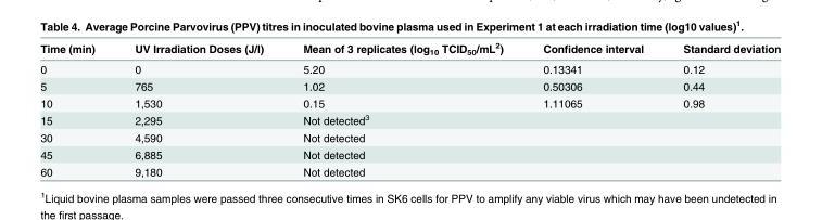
<table><thead><tr><td>Time (min)</td><td>UV Irradiation Doses (J/l)</td><td>Mean of 3 replicates (log<sub>10</sub> TCID<sub>50</sub>/mL<sup>2</sup>)</td><td>Confidence interval</td><td>Standard deviation</td></tr></thead><tbody><tr><td>0</td><td>0</td><td>5.20</td><td>0.13341</td><td>0.12</td></tr><tr><td>5</td><td>765</td><td>1.02</td><td>0.50306</td><td>0.44</td></tr><tr><td>10</td><td>1,530</td><td>0.15</td><td>1.11065</td><td>0.98</td></tr><tr><td>15</td><td>2,295</td><td>Not detected<sup>3</sup></td><td></td><td></td></tr><tr><td>30</td><td>4,590</td><td>Not detected</td><td></td><td></td></tr><tr><td>45</td><td>6,885</td><td>Not detected</td><td></td><td></td></tr><tr><td>60</td><td>9,180</td><td>Not detected</td><td></td><td></td></tr></tbody></table>